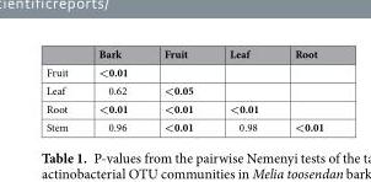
<table><thead><tr><td></td><td>Bark</td><td>Fruit</td><td>Leaf</td><td>Root</td></tr></thead><tbody><tr><td>Fruit</td><td>&lt;0.01</td><td></td><td></td><td></td></tr><tr><td>Leaf</td><td>0.62</td><td>&lt;0.05</td><td></td><td></td></tr><tr><td>Root</td><td>&lt;0.01</td><td>&lt;0.01</td><td>&lt;0.01</td><td></td></tr><tr><td>Stem</td><td>0.96</td><td>&lt;0.01</td><td>0.98</td><td>&lt;0.01</td></tr></tbody></table>